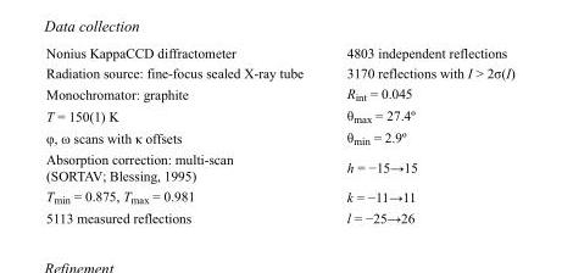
<table><tbody><tr><td>Nonius KappaCCD diffractometer</td><td>4803 independent reflections</td></tr><tr><td>Radiation source: fine-focus sealed X-ray tube</td><td>3170 reflections with I &gt; 2σ(I)</td></tr><tr><td>Monochromator: graphite</td><td>R<sub>int</sub> = 0.045</td></tr><tr><td>T = 150(1) K</td><td>θ<sub>max</sub> = 27.4º</td></tr><tr><td>φ, ω scans with κ offsets</td><td>θ<sub>min</sub> = 2.9º</td></tr><tr><td>Absorption correction: multi-scan (SORTAV; Blessing, 1995)</td><td>h = −15→15</td></tr><tr><td>T<sub>min</sub> = 0.875, T<sub>max</sub> = 0.981</td><td>k = −11→11</td></tr><tr><td>5113 measured reflections</td><td>l = −25→26</td></tr></tbody></table>